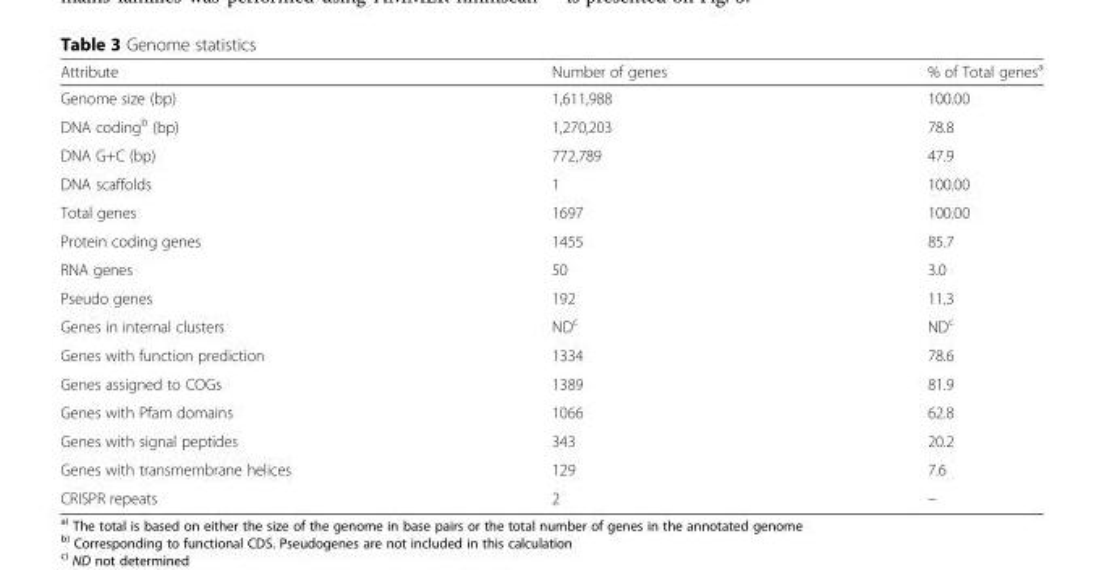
<table><thead><tr><td>Attribute</td><td>Number of genes</td><td>% of Total genes<sup>a</sup></td></tr></thead><tbody><tr><td>Genome size (bp)</td><td>1,611,988</td><td>100.00</td></tr><tr><td>DNA coding<sup>b</sup> (bp)</td><td>1,270,203</td><td>78.8</td></tr><tr><td>DNA G+C (bp)</td><td>772,789</td><td>47.9</td></tr><tr><td>DNA scaffolds</td><td>1</td><td>100.00</td></tr><tr><td>Total genes</td><td>1697</td><td>100.00</td></tr><tr><td>Protein coding genes</td><td>1455</td><td>85.7</td></tr><tr><td>RNA genes</td><td>50</td><td>3.0</td></tr><tr><td>Pseudo genes</td><td>192</td><td>11.3</td></tr><tr><td>Genes in internal clusters</td><td>ND<sup>c</sup></td><td>ND<sup>c</sup></td></tr><tr><td>Genes with function prediction</td><td>1334</td><td>78.6</td></tr><tr><td>Genes assigned to COGs</td><td>1389</td><td>81.9</td></tr><tr><td>Genes with Pfam domains</td><td>1066</td><td>62.8</td></tr><tr><td>Genes with signal peptides</td><td>343</td><td>20.2</td></tr><tr><td>Genes with transmembrane helices</td><td>129</td><td>7.6</td></tr><tr><td>CRISPR repeats</td><td>2</td><td>–</td></tr></tbody></table>